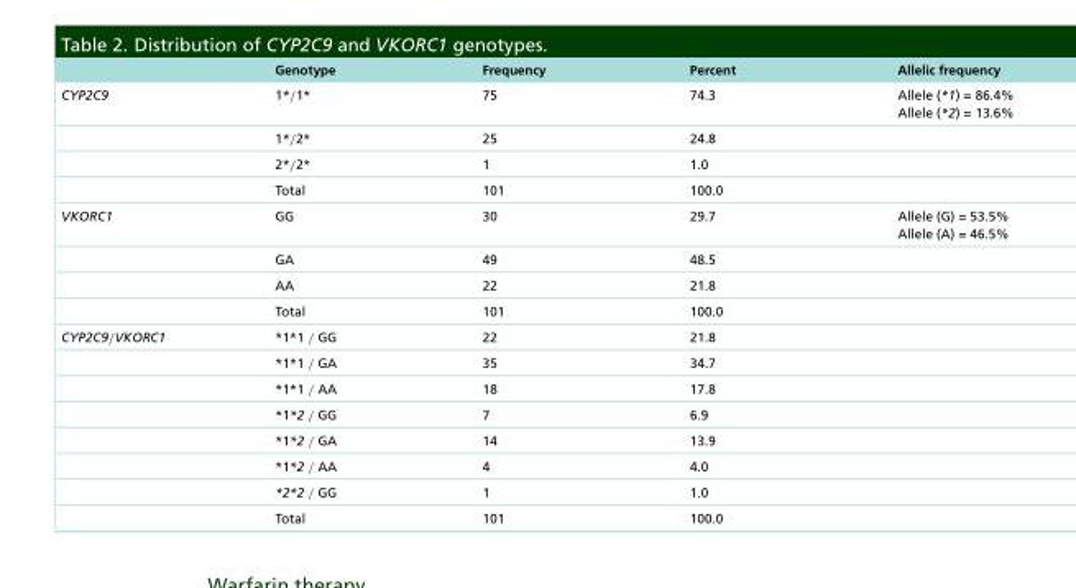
<table><thead><tr><td></td><td>Genotype</td><td>Frequency</td><td>Percent</td><td>Allelic frequency</td></tr></thead><tbody><tr><td rowspan="4">CYP2C9</td><td>1*/1*</td><td>75</td><td>74.3</td><td>Allele (*1) = 86.4% Allele (*2) = 13.6%</td></tr><tr><td>1*/2*</td><td>25</td><td>24.8</td><td></td></tr><tr><td>2*/2*</td><td>1</td><td>1.0</td><td></td></tr><tr><td>Total</td><td>101</td><td>100.0</td><td></td></tr><tr><td rowspan="4">VKORC1</td><td>GG</td><td>30</td><td>29.7</td><td>Allele (G) = 53.5% Allele (A) = 46.5%</td></tr><tr><td>GA</td><td>49</td><td>48.5</td><td></td></tr><tr><td>AA</td><td>22</td><td>21.8</td><td></td></tr><tr><td>Total</td><td>101</td><td>100.0</td><td></td></tr><tr><td rowspan="8">CYP2C9/VKORC1</td><td>*1*1 / GG</td><td>22</td><td>21.8</td><td></td></tr><tr><td>*1*1 / GA</td><td>35</td><td>34.7</td><td></td></tr><tr><td>*1*1 / AA</td><td>18</td><td>17.8</td><td></td></tr><tr><td>*1*2 / GG</td><td>7</td><td>6.9</td><td></td></tr><tr><td>*1*2 / GA</td><td>14</td><td>13.9</td><td></td></tr><tr><td>*1*2 / AA</td><td>4</td><td>4.0</td><td></td></tr><tr><td>*2*2 / GG</td><td>1</td><td>1.0</td><td></td></tr><tr><td>Total</td><td>101</td><td>100.0</td><td></td></tr></tbody></table>